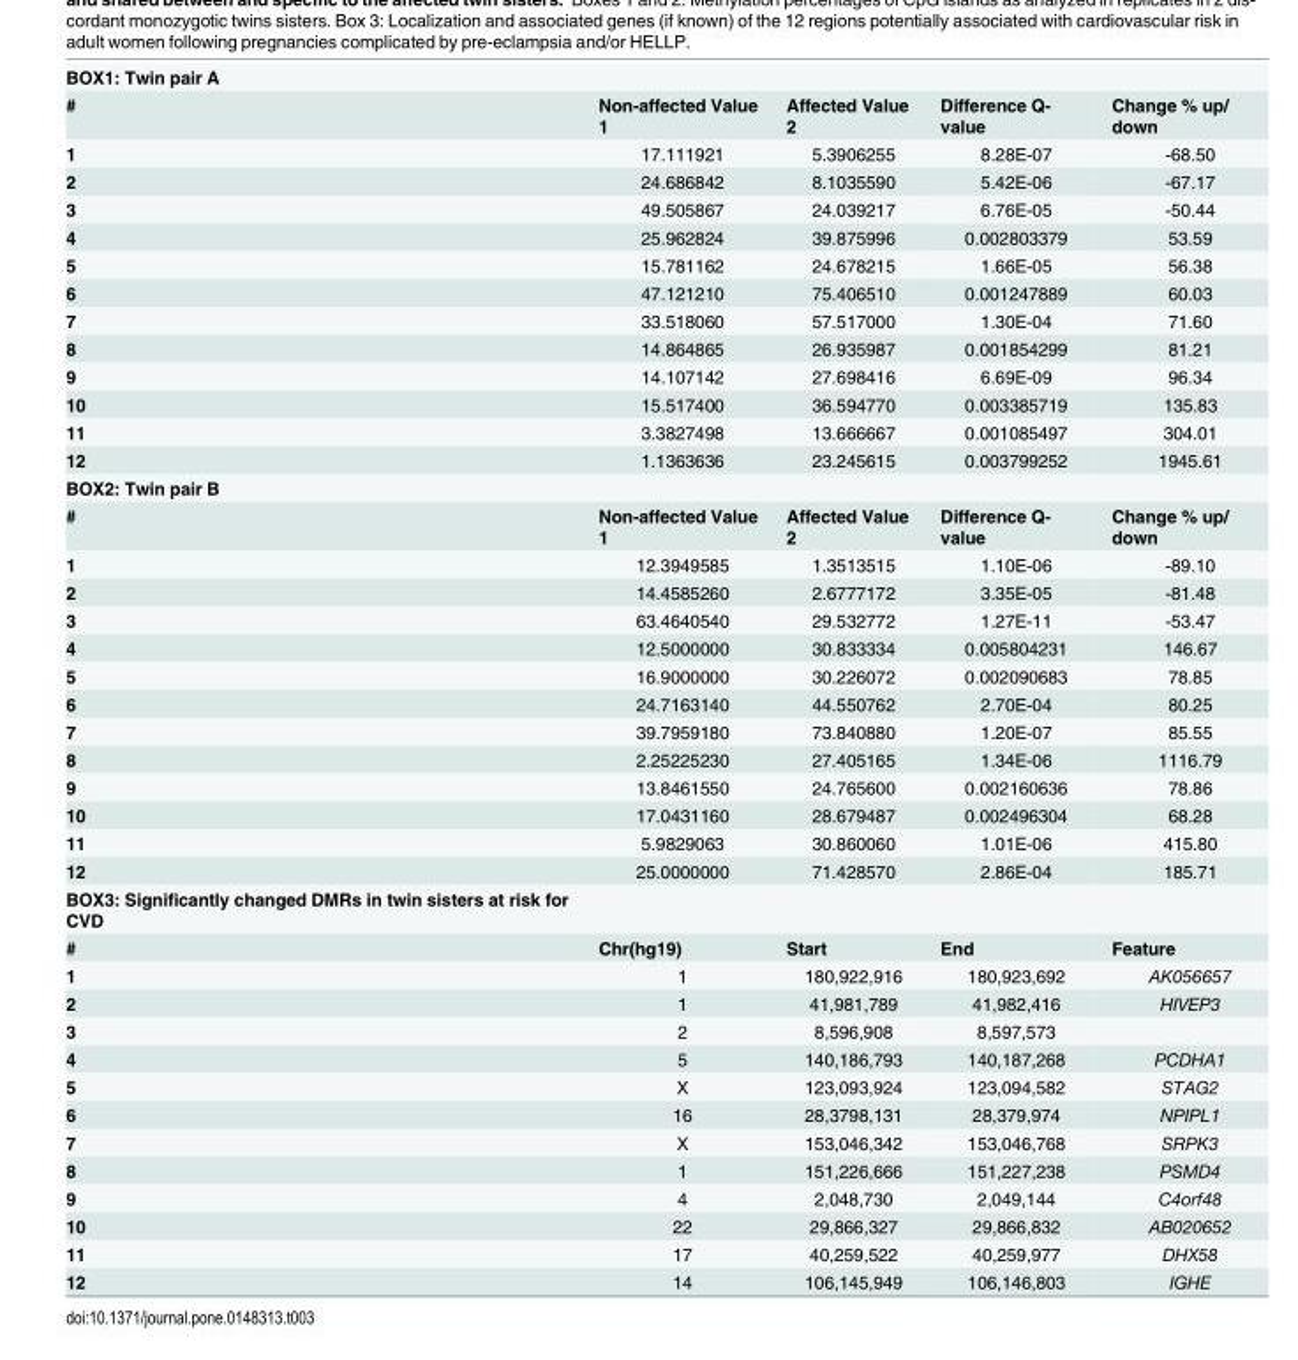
<table><tbody><tr><td colspan="5">BOX1: Twin pair A</td></tr><tr><td>#</td><td>Non-affected Value 1</td><td>Affected Value 2</td><td>Difference Q- value</td><td>Change % up/ down</td></tr><tr><td>1</td><td>17.111921</td><td>5.3906255</td><td>8.28E-07</td><td>-68.50</td></tr><tr><td>2</td><td>24.686842</td><td>8.1035590</td><td>5.42E-06</td><td>-67.17</td></tr><tr><td>3</td><td>49.505867</td><td>24.039217</td><td>6.76E-05</td><td>-50.44</td></tr><tr><td>4</td><td>25.962824</td><td>39.875996</td><td>0.002803379</td><td>53.59</td></tr><tr><td>5</td><td>15.781162</td><td>24.678215</td><td>1.66E-05</td><td>56.38</td></tr><tr><td>6</td><td>47.121210</td><td>75.406510</td><td>0.001247889</td><td>60.03</td></tr><tr><td>7</td><td>33.518060</td><td>57.517000</td><td>1.30E-04</td><td>71.60</td></tr><tr><td>8</td><td>14.864865</td><td>26.935987</td><td>0.001854299</td><td>81.21</td></tr><tr><td>9</td><td>14.107142</td><td>27.698416</td><td>6.69E-09</td><td>96.34</td></tr><tr><td>10</td><td>15.517400</td><td>36.594770</td><td>0.003385719</td><td>135.83</td></tr><tr><td>11</td><td>3.3827498</td><td>13.666667</td><td>0.001085497</td><td>304.01</td></tr><tr><td>12</td><td>1.1363636</td><td>23.245615</td><td>0.003799252</td><td>1945.61</td></tr><tr><td colspan="5">BOX2: Twin pair B</td></tr><tr><td>#</td><td>Non-affected Value 1</td><td>Affected Value 2</td><td>Difference Q- value</td><td>Change % up/ down</td></tr><tr><td>1</td><td>12.3949585</td><td>1.3513515</td><td>1.10E-06</td><td>-89.10</td></tr><tr><td>2</td><td>14.4585260</td><td>2.6777172</td><td>3.35E-05</td><td>-81.48</td></tr><tr><td>3</td><td>63.4640540</td><td>29.532772</td><td>1.27E-11</td><td>-53.47</td></tr><tr><td>4</td><td>12.5000000</td><td>30.833334</td><td>0.005804231</td><td>146.67</td></tr><tr><td>5</td><td>16.9000000</td><td>30.226072</td><td>0.002090683</td><td>78.85</td></tr><tr><td>6</td><td>24.7163140</td><td>44.550762</td><td>2.70E-04</td><td>80.25</td></tr><tr><td>7</td><td>39.7959180</td><td>73.840880</td><td>1.20E-07</td><td>85.55</td></tr><tr><td>8</td><td>2.25225230</td><td>27.405165</td><td>1.34E-06</td><td>1116.79</td></tr><tr><td>9</td><td>13.8461550</td><td>24.765600</td><td>0.002160636</td><td>78.86</td></tr><tr><td>10</td><td>17.0431160</td><td>28.679487</td><td>0.002496304</td><td>68.28</td></tr><tr><td>11</td><td>5.9829063</td><td>30.860060</td><td>1.01E-06</td><td>415.80</td></tr><tr><td>12</td><td>25.0000000</td><td>71.428570</td><td>2.86E-04</td><td>185.71</td></tr><tr><td colspan="5">BOX3: Significantly changed DMRs in twin sisters at risk for CVD</td></tr><tr><td>#</td><td>Chr(hg19)</td><td>Start</td><td>End</td><td>Feature</td></tr><tr><td>1</td><td>1</td><td>180,922,916</td><td>180,923,692</td><td>AK056657</td></tr><tr><td>2</td><td>1</td><td>41,981,789</td><td>41,982,416</td><td>HIVEP3</td></tr><tr><td>3</td><td>2</td><td>8,596,908</td><td>8,597,573</td><td></td></tr><tr><td>4</td><td>5</td><td>140,186,793</td><td>140,187,268</td><td>PCDHA1</td></tr><tr><td>5</td><td>X</td><td>123,093,924</td><td>123,094,582</td><td>STAG2</td></tr><tr><td>6</td><td>16</td><td>28,3798,131</td><td>28,379,974</td><td>NPIPL1</td></tr><tr><td>7</td><td>X</td><td>153,046,342</td><td>153,046,768</td><td>SRPK3</td></tr><tr><td>8</td><td>1</td><td>151,226,666</td><td>151,227,238</td><td>PSMD4</td></tr><tr><td>9</td><td>4</td><td>2,048,730</td><td>2,049,144</td><td>C4orf48</td></tr><tr><td>10</td><td>22</td><td>29,866,327</td><td>29,866,832</td><td>AB020652</td></tr><tr><td>11</td><td>17</td><td>40,259,522</td><td>40,259,977</td><td>DHX58</td></tr><tr><td>12</td><td>14</td><td>106,145,949</td><td>106,146,803</td><td>IGHE</td></tr></tbody></table>